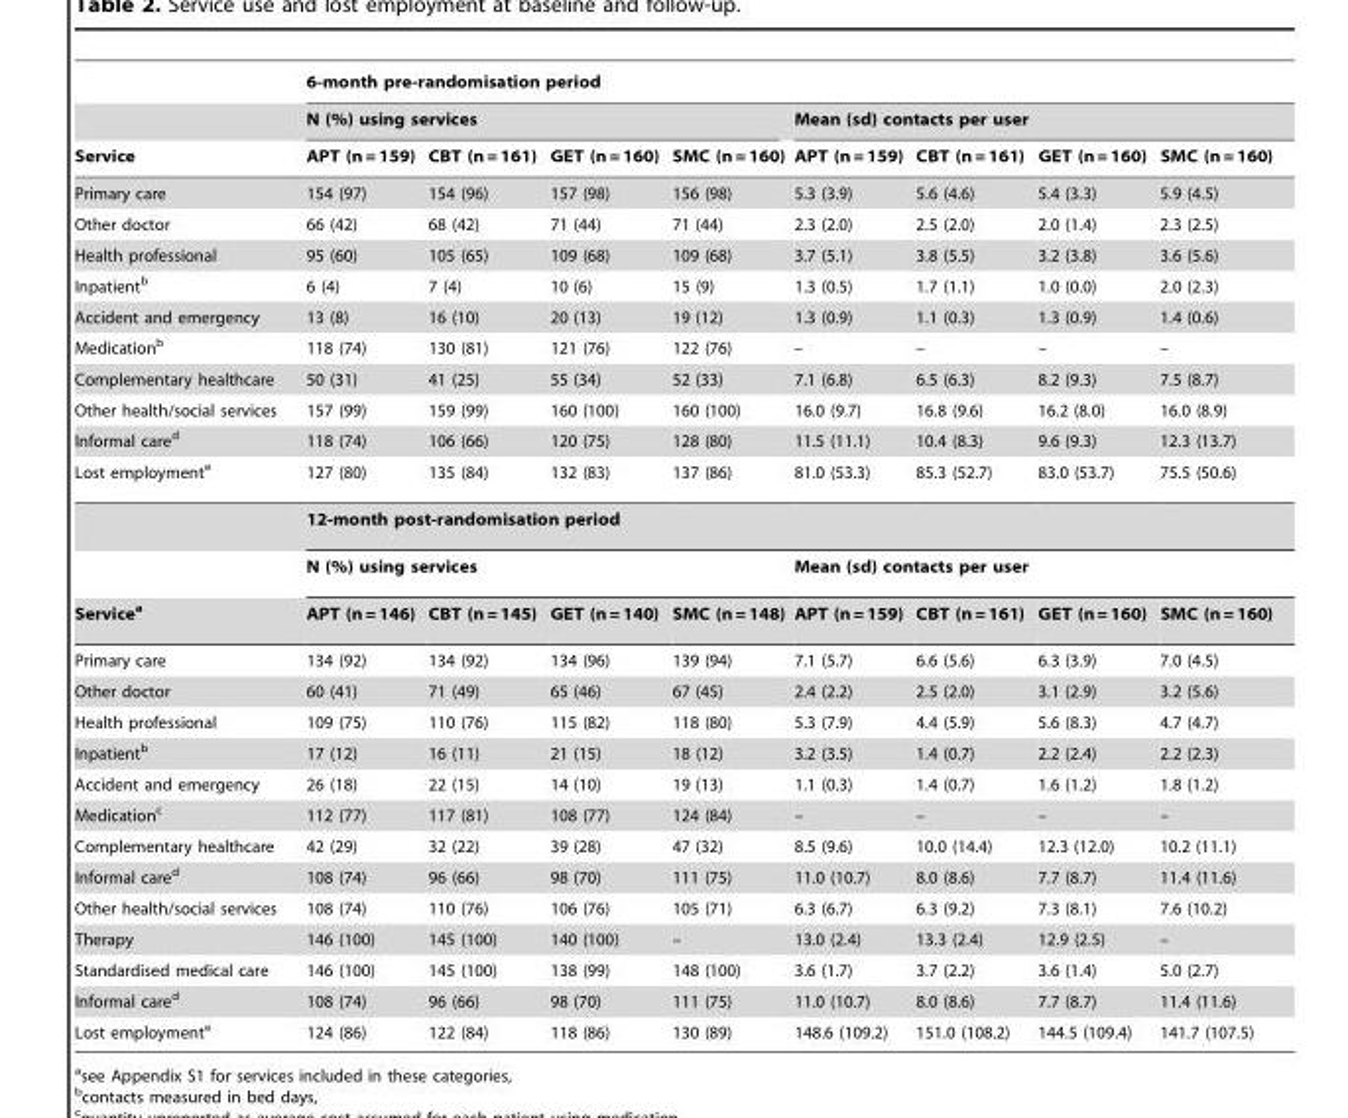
<table><thead><tr><td rowspan="3">Service</td><td colspan="8">6-month pre-randomisation period</td></tr><tr><td colspan="4">N (%) using services</td><td colspan="4">Mean (sd) contacts per user</td></tr><tr><td>APT (n = 159)</td><td>CBT (n = 161)</td><td>GET (n = 160)</td><td>SMC (n = 160)</td><td>APT (n = 159)</td><td>CBT (n = 161)</td><td>GET (n = 160)</td><td>SMC (n = 160)</td></tr></thead><tbody><tr><td>Primary care</td><td>154 (97)</td><td>154 (96)</td><td>157 (98)</td><td>156 (98)</td><td>5.3 (3.9)</td><td>5.6 (4.6)</td><td>5.4 (3.3)</td><td>5.9 (4.5)</td></tr><tr><td>Other doctor</td><td>66 (42)</td><td>68 (42)</td><td>71 (44)</td><td>71 (44)</td><td>2.3 (2.0)</td><td>2.5 (2.0)</td><td>2.0 (1.4)</td><td>2.3 (2.5)</td></tr><tr><td>Health professional</td><td>95 (60)</td><td>105 (65)</td><td>109 (68)</td><td>109 (68)</td><td>3.7 (5.1)</td><td>3.8 (5.5)</td><td>3.2 (3.8)</td><td>3.6 (5.6)</td></tr><tr><td>Inpatient<sup>b</sup></td><td>6 (4)</td><td>7 (4)</td><td>10 (6)</td><td>15 (9)</td><td>1.3 (0.5)</td><td>1.7 (1.1)</td><td>1.0 (0.0)</td><td>2.0 (2.3)</td></tr><tr><td>Accident and emergency</td><td>13 (8)</td><td>16 (10)</td><td>20 (13)</td><td>19 (12)</td><td>1.3 (0.9)</td><td>1.1 (0.3)</td><td>1.3 (0.9)</td><td>1.4 (0.6)</td></tr><tr><td>Medication<sup>b</sup></td><td>118 (74)</td><td>130 (81)</td><td>121 (76)</td><td>122 (76)</td><td>–</td><td>–</td><td>–</td><td>–</td></tr><tr><td>Complementary healthcare</td><td>50 (31)</td><td>41 (25)</td><td>55 (34)</td><td>52 (33)</td><td>7.1 (6.8)</td><td>6.5 (6.3)</td><td>8.2 (9.3)</td><td>7.5 (8.7)</td></tr><tr><td>Other health/social services</td><td>157 (99)</td><td>159 (99)</td><td>160 (100)</td><td>160 (100)</td><td>16.0 (9.7)</td><td>16.8 (9.6)</td><td>16.2 (8.0)</td><td>16.0 (8.9)</td></tr><tr><td>Informal care<sup>d</sup></td><td>118 (74)</td><td>106 (66)</td><td>120 (75)</td><td>128 (80)</td><td>11.5 (11.1)</td><td>10.4 (8.3)</td><td>9.6 (9.3)</td><td>12.3 (13.7)</td></tr><tr><td rowspan="3">Lost employment<sup>e</sup></td><td>127 (80)</td><td>135 (84)</td><td>132 (83)</td><td>137 (86)</td><td>81.0 (53.3)</td><td>85.3 (52.7)</td><td>83.0 (53.7)</td><td>75.5 (50.6)</td></tr><tr><td colspan="8">12-month post-randomisation period</td></tr><tr><td colspan="4">N (%) using services</td><td colspan="4">Mean (sd) contacts per user</td></tr><tr><td>Servicea</td><td>APT (n = 146)</td><td>CBT (n = 145)</td><td>GET (n = 140)</td><td>SMC (n = 148)</td><td>APT (n = 159)</td><td>CBT (n = 161)</td><td>GET (n = 160)</td><td>SMC (n = 160)</td></tr><tr><td>Primary care</td><td>134 (92)</td><td>134 (92)</td><td>134 (96)</td><td>139 (94)</td><td>7.1 (5.7)</td><td>6.6 (5.6)</td><td>6.3 (3.9)</td><td>7.0 (4.5)</td></tr><tr><td>Other doctor</td><td>60 (41)</td><td>71 (49)</td><td>65 (46)</td><td>67 (45)</td><td>2.4 (2.2)</td><td>2.5 (2.0)</td><td>3.1 (2.9)</td><td>3.2 (5.6)</td></tr><tr><td>Health professional</td><td>109 (75)</td><td>110 (76)</td><td>115 (82)</td><td>118 (80)</td><td>5.3 (7.9)</td><td>4.4 (5.9)</td><td>5.6 (8.3)</td><td>4.7 (4.7)</td></tr><tr><td>Inpatient<sup>b</sup></td><td>17 (12)</td><td>16 (11)</td><td>21 (15)</td><td>18 (12)</td><td>3.2 (3.5)</td><td>1.4 (0.7)</td><td>2.2 (2.4)</td><td>2.2 (2.3)</td></tr><tr><td>Accident and emergency</td><td>26 (18)</td><td>22 (15)</td><td>14 (10)</td><td>19 (13)</td><td>1.1 (0.3)</td><td>1.4 (0.7)</td><td>1.6 (1.2)</td><td>1.8 (1.2)</td></tr><tr><td>Medication<sup>c</sup></td><td>112 (77)</td><td>117 (81)</td><td>108 (77)</td><td>124 (84)</td><td>–</td><td>–</td><td>–</td><td>–</td></tr><tr><td>Complementary healthcare</td><td>42 (29)</td><td>32 (22)</td><td>39 (28)</td><td>47 (32)</td><td>8.5 (9.6)</td><td>10.0 (14.4)</td><td>12.3 (12.0)</td><td>10.2 (11.1)</td></tr><tr><td>Informal care<sup>d</sup></td><td>108 (74)</td><td>96 (66)</td><td>98 (70)</td><td>111 (75)</td><td>11.0 (10.7)</td><td>8.0 (8.6)</td><td>7.7 (8.7)</td><td>11.4 (11.6)</td></tr><tr><td>Other health/social services</td><td>108 (74)</td><td>110 (76)</td><td>106 (76)</td><td>105 (71)</td><td>6.3 (6.7)</td><td>6.3 (9.2)</td><td>7.3 (8.1)</td><td>7.6 (10.2)</td></tr><tr><td>Therapy</td><td>146 (100)</td><td>145 (100)</td><td>140 (100)</td><td>–</td><td>13.0 (2.4)</td><td>13.3 (2.4)</td><td>12.9 (2.5)</td><td>–</td></tr><tr><td>Standardised medical care</td><td>146 (100)</td><td>145 (100)</td><td>138 (99)</td><td>148 (100)</td><td>3.6 (1.7)</td><td>3.7 (2.2)</td><td>3.6 (1.4)</td><td>5.0 (2.7)</td></tr><tr><td>Informal care<sup>d</sup></td><td>108 (74)</td><td>96 (66)</td><td>98 (70)</td><td>111 (75)</td><td>11.0 (10.7)</td><td>8.0 (8.6)</td><td>7.7 (8.7)</td><td>11.4 (11.6)</td></tr><tr><td>Lost employment<sup>e</sup></td><td>124 (86)</td><td>122 (84)</td><td>118 (86)</td><td>130 (89)</td><td>148.6 (109.2)</td><td>151.0 (108.2)</td><td>144.5 (109.4)</td><td>141.7 (107.5)</td></tr></tbody></table>